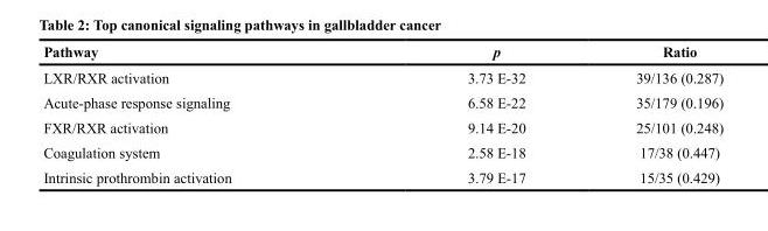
<table><thead><tr><td>Pathway</td><td>p</td><td>Ratio</td></tr></thead><tbody><tr><td>LXR/RXR activation</td><td>3.73 E-32</td><td>39/136 (0.287)</td></tr><tr><td>Acute-phase response signaling</td><td>6.58 E-22</td><td>35/179 (0.196)</td></tr><tr><td>FXR/RXR activation</td><td>9.14 E-20</td><td>25/101 (0.248)</td></tr><tr><td>Coagulation system</td><td>2.58 E-18</td><td>17/38 (0.447)</td></tr><tr><td>Intrinsic prothrombin activation</td><td>3.79 E-17</td><td>15/35 (0.429)</td></tr></tbody></table>